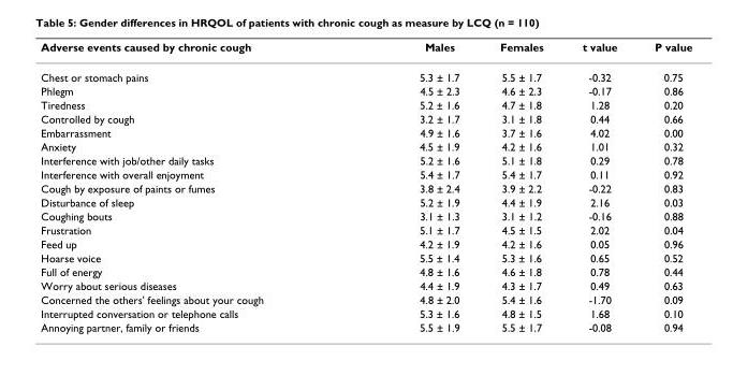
<table><thead><tr><td>Adverse events caused by chronic cough</td><td>Males</td><td>Females</td><td>t value</td><td>P value</td></tr></thead><tbody><tr><td>Chest or stomach pains</td><td>5.3 ± 1.7</td><td>5.5 ± 1.7</td><td>-0.32</td><td>0.75</td></tr><tr><td>Phlegm</td><td>4.5 ± 2.3</td><td>4.6 ± 2.3</td><td>-0.17</td><td>0.86</td></tr><tr><td>Tiredness</td><td>5.2 ± 1.6</td><td>4.7 ± 1.8</td><td>1.28</td><td>0.20</td></tr><tr><td>Controlled by cough</td><td>3.2 ± 1.7</td><td>3.1 ± 1.8</td><td>0.44</td><td>0.66</td></tr><tr><td>Embarrassment</td><td>4.9 ± 1.6</td><td>3.7 ± 1.6</td><td>4.02</td><td>0.00</td></tr><tr><td>Anxiety</td><td>4.5 ± 1.9</td><td>4.2 ± 1.6</td><td>1.01</td><td>0.32</td></tr><tr><td>Interference with job/other daily tasks</td><td>5.2 ± 1.6</td><td>5.1 ± 1.8</td><td>0.29</td><td>0.78</td></tr><tr><td>Interference with overall enjoyment</td><td>5.4 ± 1.7</td><td>5.4 ± 1.7</td><td>0.11</td><td>0.92</td></tr><tr><td>Cough by exposure of paints or fumes</td><td>3.8 ± 2.4</td><td>3.9 ± 2.2</td><td>-0.22</td><td>0.83</td></tr><tr><td>Disturbance of sleep</td><td>5.2 ± 1.9</td><td>4.4 ± 1.9</td><td>2.16</td><td>0.03</td></tr><tr><td>Coughing bouts</td><td>3.1 ± 1.3</td><td>3.1 ± 1.2</td><td>-0.16</td><td>0.88</td></tr><tr><td>Frustration</td><td>5.1 ± 1.7</td><td>4.5 ± 1.5</td><td>2.02</td><td>0.04</td></tr><tr><td>Feed up</td><td>4.2 ± 1.9</td><td>4.2 ± 1.6</td><td>0.05</td><td>0.96</td></tr><tr><td>Hoarse voice</td><td>5.5 ± 1.4</td><td>5.3 ± 1.6</td><td>0.65</td><td>0.52</td></tr><tr><td>Full of energy</td><td>4.8 ± 1.6</td><td>4.6 ± 1.8</td><td>0.78</td><td>0.44</td></tr><tr><td>Worry about serious diseases</td><td>4.4 ± 1.9</td><td>4.3 ± 1.7</td><td>0.49</td><td>0.63</td></tr><tr><td>Concerned the others&#x27; feelings about your cough</td><td>4.8 ± 2.0</td><td>5.4 ± 1.6</td><td>-1.70</td><td>0.09</td></tr><tr><td>Interrupted conversation or telephone calls</td><td>5.3 ± 1.6</td><td>4.8 ± 1.5</td><td>1.68</td><td>0.10</td></tr><tr><td>Annoying partner, family or friends</td><td>5.5 ± 1.9</td><td>5.5 ± 1.7</td><td>-0.08</td><td>0.94</td></tr></tbody></table>